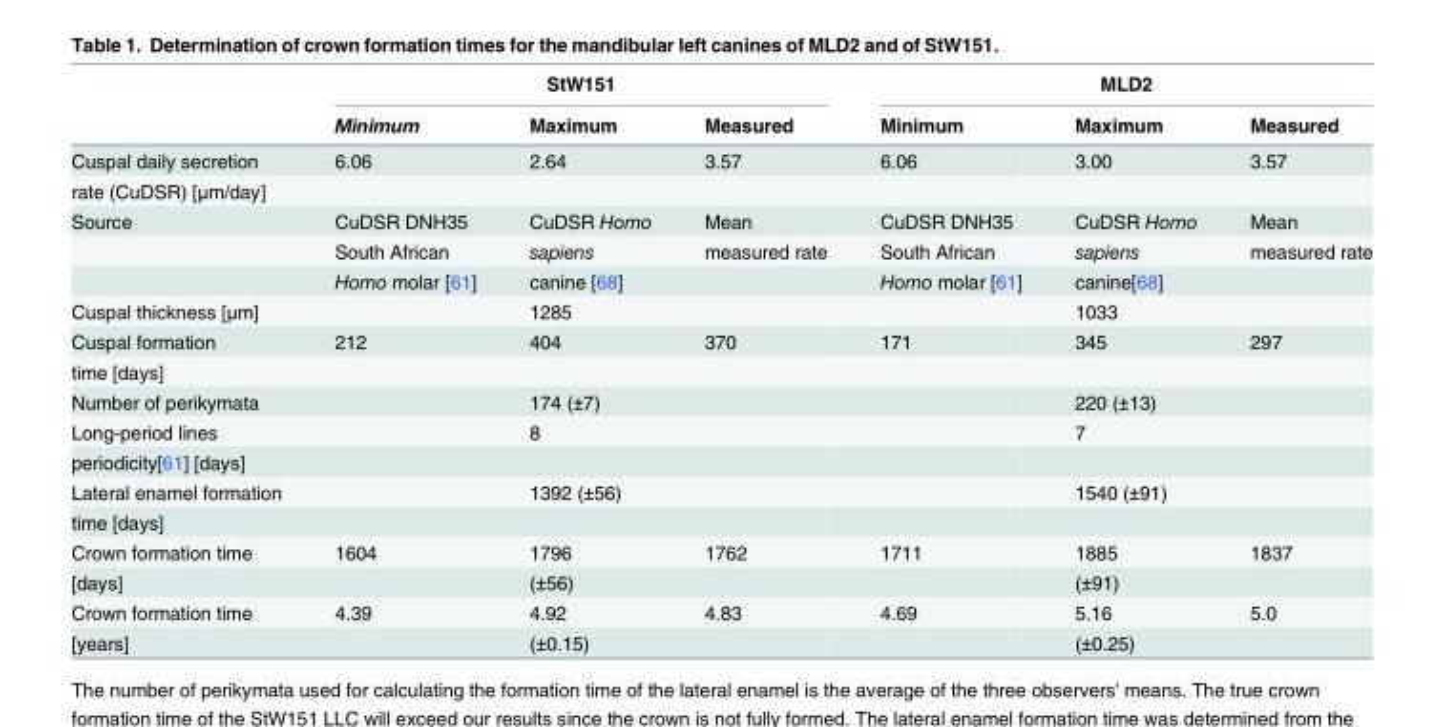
<table><thead><tr><td rowspan="2"></td><td colspan="3">StW151</td><td colspan="3">MLD2</td></tr><tr><td>Minimum</td><td>Maximum</td><td>Measured</td><td>Minimum</td><td>Maximum</td><td>Measured</td></tr></thead><tbody><tr><td>Cuspal daily secretion</td><td>6.06</td><td>2.64</td><td>3.57</td><td>6.06</td><td>3.00</td><td>3.57</td></tr><tr><td colspan="7">rate (CuDSR) [μm/day]</td></tr><tr><td rowspan="3">Source</td><td>CuDSR DNH35</td><td>CuDSR Homo</td><td>Mean</td><td>CuDSR DNH35</td><td>CuDSR Homo</td><td>Mean</td></tr><tr><td>South African</td><td>sapiens</td><td>measured rate</td><td>South African</td><td>sapiens</td><td>measured rate</td></tr><tr><td>Homo molar [61]</td><td>canine [68]</td><td></td><td>Homo molar [61]</td><td>canine[68]</td><td></td></tr><tr><td>Cuspal thickness [μm]</td><td></td><td>1285</td><td></td><td></td><td>1033</td><td></td></tr><tr><td>Cuspal formation</td><td>212</td><td>404</td><td>370</td><td>171</td><td>345</td><td>297</td></tr><tr><td colspan="7">time [days]</td></tr><tr><td>Number of perikymata</td><td></td><td>174 (±7)</td><td></td><td></td><td>220 (±13)</td><td></td></tr><tr><td>Long-period lines</td><td></td><td>8</td><td></td><td></td><td>7</td><td></td></tr><tr><td colspan="7">periodicity[61] [days]</td></tr><tr><td>Lateral enamel formation</td><td></td><td>1392 (±56)</td><td></td><td></td><td>1540 (±91)</td><td></td></tr><tr><td colspan="7">time [days]</td></tr><tr><td>Crown formation time</td><td>1604</td><td>1796</td><td>1762</td><td>1711</td><td>1885</td><td>1837</td></tr><tr><td>[days]</td><td></td><td>(±56)</td><td></td><td></td><td>(±91)</td><td></td></tr><tr><td>Crown formation time</td><td>4.39</td><td>4.92</td><td>4.83</td><td>4.69</td><td>5.16</td><td>5.0</td></tr><tr><td>[years]</td><td></td><td>(±0.15)</td><td></td><td></td><td>(±0.25)</td><td></td></tr></tbody></table>